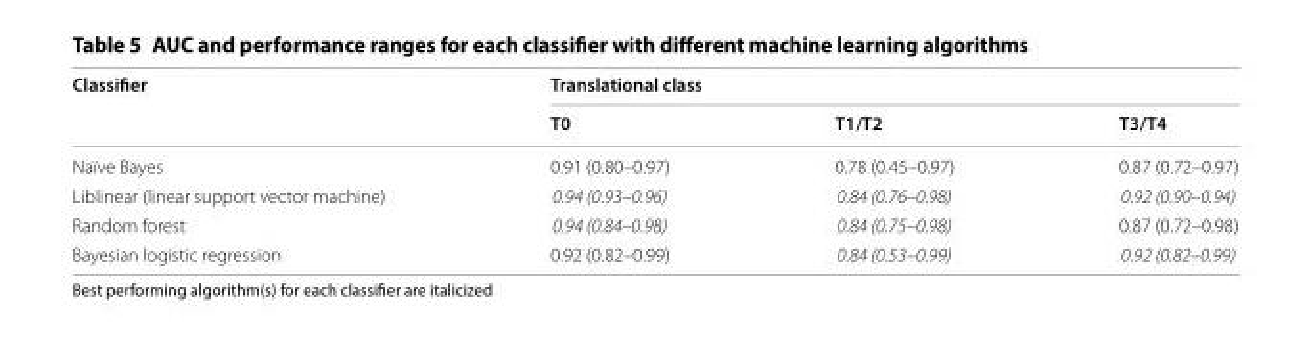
<table><thead><tr><td rowspan="2">Classifier</td><td colspan="3">Translational class</td></tr><tr><td>T0</td><td>T1/T2</td><td>T3/T4</td></tr></thead><tbody><tr><td>Naïve Bayes</td><td>0.91 (0.80–0.97)</td><td>0.78 (0.45–0.97)</td><td>0.87 (0.72–0.97)</td></tr><tr><td>Liblinear (linear support vector machine)</td><td>0.94 (0.93–0.96)</td><td>0.84 (0.76–0.98)</td><td>0.92 (0.90–0.94)</td></tr><tr><td>Random forest</td><td>0.94 (0.84–0.98)</td><td>0.84 (0.75–0.98)</td><td>0.87 (0.72–0.98)</td></tr><tr><td>Bayesian logistic regression</td><td>0.92 (0.82–0.99)</td><td>0.84 (0.53–0.99)</td><td>0.92 (0.82–0.99)</td></tr></tbody></table>